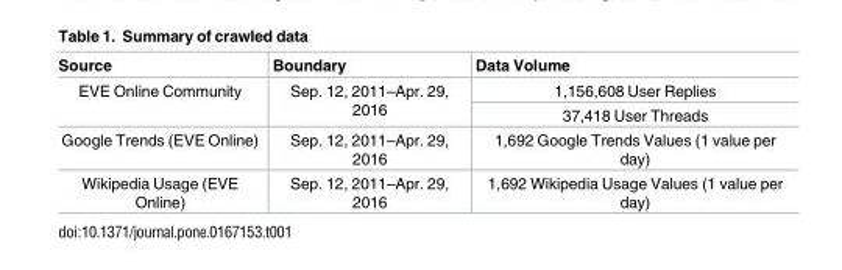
<table><thead><tr><td>Source</td><td>Boundary</td><td>Data Volume</td></tr></thead><tbody><tr><td rowspan="2">EVE Online Community</td><td rowspan="2">Sep. 12, 2011–Apr. 29, 2016</td><td>1,156,608 User Replies</td></tr><tr><td>37,418 User Threads</td></tr><tr><td>Google Trends (EVE Online)</td><td>Sep. 12, 2011–Apr. 29, 2016</td><td>1,692 Google Trends Values (1 value per day)</td></tr><tr><td>Wikipedia Usage (EVE Online)</td><td>Sep. 12, 2011–Apr. 29, 2016</td><td>1,692 Wikipedia Usage Values (1 value per day)</td></tr></tbody></table>